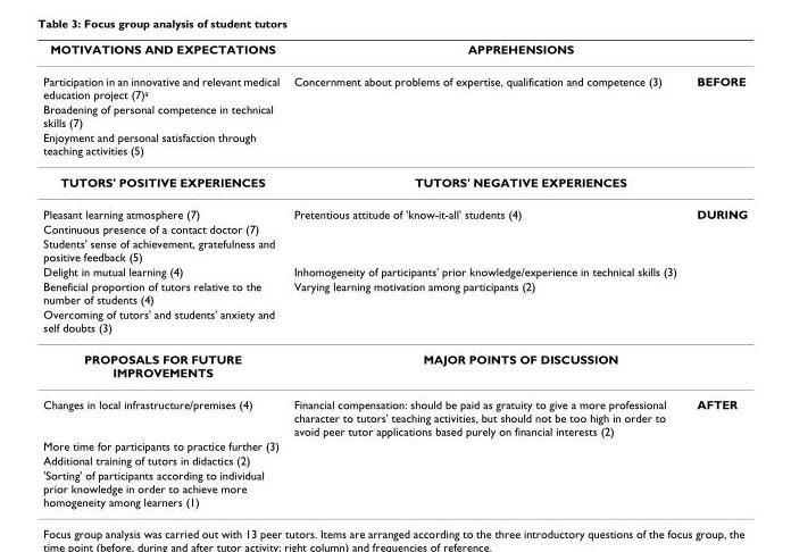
<table><thead><tr><td rowspan="2">MOTIVATIONS AND EXPECTATIONS Participation in an innovative and relevant medical education project (7)a</td><td colspan="2">APPREHENSIONS</td></tr><tr><td>Concernment about problems of expertise, qualification and competence (3)</td><td>BEFORE</td></tr></thead><tbody><tr><td colspan="3">Broadening of personal competence in technical skills (7)</td></tr><tr><td colspan="3">Enjoyment and personal satisfaction through teaching activities (5)</td></tr><tr><td>TUTORS&#x27; POSITIVE EXPERIENCES</td><td colspan="2">TUTORS&#x27; NEGATIVE EXPERIENCES</td></tr><tr><td>Pleasant learning atmosphere (7)</td><td>Pretentious attitude of &#x27;know-it-all&#x27; students (4)</td><td>DURING</td></tr><tr><td colspan="3">Continuous presence of a contact doctor (7)</td></tr><tr><td colspan="3">Students&#x27; sense of achievement, gratefulness and positive feedback (5)</td></tr><tr><td>Delight in mutual learning (4)</td><td>Inhomogeneity of participants&#x27; prior knowledge/experience in technical skills (3)</td><td></td></tr><tr><td>Beneficial proportion of tutors relative to the number of students (4)</td><td>Varying learning motivation among participants (2)</td><td></td></tr><tr><td colspan="3">Overcoming of tutors&#x27; and students&#x27; anxiety and self doubts (3)</td></tr><tr><td>PROPOSALS FOR FUTURE IMPROVEMENTS</td><td colspan="2">MAJOR POINTS OF DISCUSSION</td></tr><tr><td>Changes in local infrastructure/premises (4)</td><td>Financial compensation: should be paid as gratuity to give a more professional character to tutors&#x27; teaching activities, but should not be too high in order to avoid peer tutor applications based purely on financial interests (2)</td><td>AFTER</td></tr><tr><td colspan="3">More time for participants to practice further (3)</td></tr><tr><td colspan="3">Additional training of tutors in didactics (2)</td></tr><tr><td>&#x27;Sorting&#x27; of participants according to individual prior knowledge in order to achieve more homogeneity among learners (1)</td><td></td><td></td></tr></tbody></table>